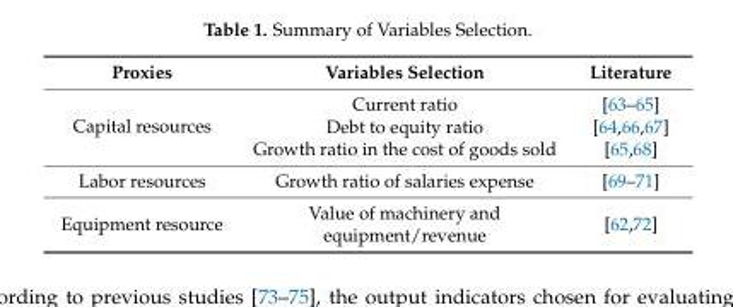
<table><thead><tr><td>Proxies</td><td>Variables Selection</td><td>Literature</td></tr></thead><tbody><tr><td rowspan="3">Capital resources</td><td>Current ratio</td><td>[63–65]</td></tr><tr><td>Debt to equity ratio</td><td>[64,66,67]</td></tr><tr><td>Growth ratio in the cost of goods sold</td><td>[65,68]</td></tr><tr><td>Labor resources</td><td>Growth ratio of salaries expense</td><td>[69–71]</td></tr><tr><td>Equipment resource</td><td>Value of machinery and equipment/revenue</td><td>[62,72]</td></tr></tbody></table>